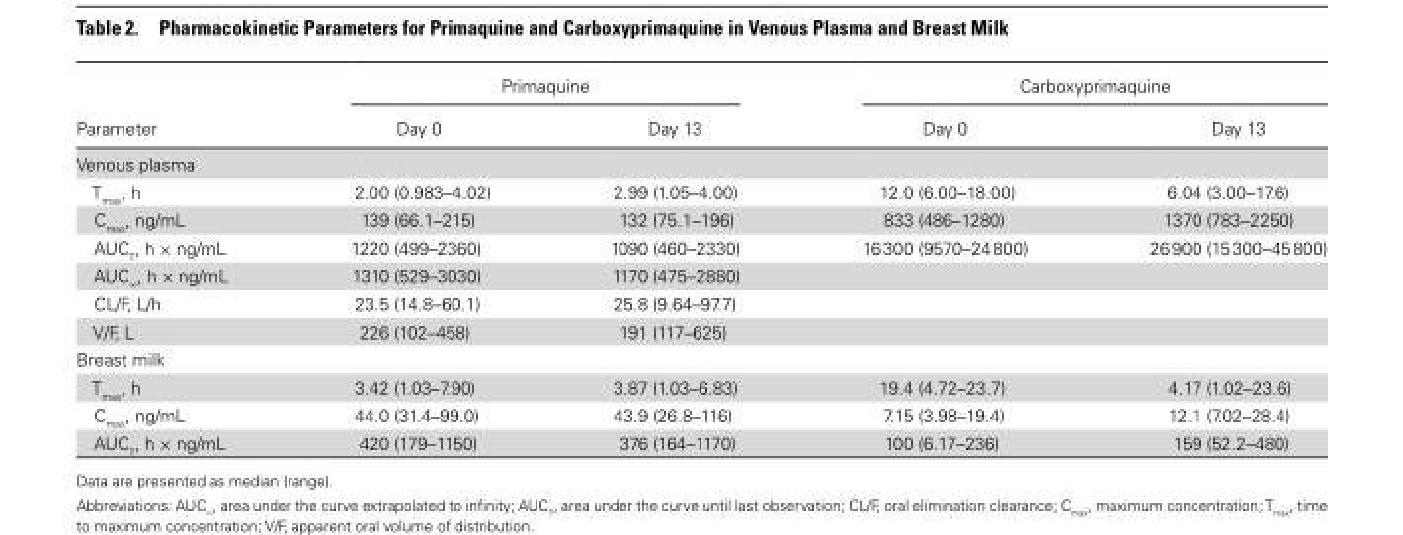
<table><thead><tr><td rowspan="2">Parameter</td><td colspan="2">Primaquine</td><td colspan="2">Carboxyprimaquine</td></tr><tr><td>Day 0</td><td>Day 13</td><td>Day 0</td><td>Day 13</td></tr></thead><tbody><tr><td colspan="5">Venous plasma</td></tr><tr><td>T<sub>max</sub>, h</td><td>2.00 (0.983–4.02)</td><td>2.99 (1.05–4.00)</td><td>12.0 (6.00–18.00)</td><td>6.04 (3.00–17.6)</td></tr><tr><td>C<sub>max</sub>, ng/mL</td><td>139 (66.1–215)</td><td>132 (75.1–196)</td><td>833 (486–1280)</td><td>1370 (783–2250)</td></tr><tr><td>AUC<sub>T</sub>, h × ng/mL</td><td>1220 (499–2360)</td><td>1090 (460–2330)</td><td>16 300 (9570–24 800)</td><td>26 900 (15 300–45 800)</td></tr><tr><td>AUC<sub>∞</sub>, h × ng/mL</td><td>1310 (529–3030)</td><td>1170 (475–2880)</td><td></td><td></td></tr><tr><td>CL/F, L/h</td><td>23.5 (14.8–60.1)</td><td>25.8 (9.64–97.7)</td><td></td><td></td></tr><tr><td>V/F, L</td><td>226 (102–458)</td><td>191 (117–625)</td><td></td><td></td></tr><tr><td colspan="5">Breast milk</td></tr><tr><td>T<sub>max</sub>, h</td><td>3.42 (1.03–7.90)</td><td>3.87 (1.03–6.83)</td><td>19.4 (4.72–23.7)</td><td>4.17 (1.02–23.6)</td></tr><tr><td>C<sub>max</sub>, ng/mL</td><td>44.0 (31.4–99.0)</td><td>43.9 (26.8–116)</td><td>7.15 (3.98–19.4)</td><td>12.1 (7.02–28.4)</td></tr><tr><td>AUC<sub>T</sub>, h × ng/mL</td><td>420 (179–1150)</td><td>376 (164–1170)</td><td>100 (6.17–236)</td><td>159 (52.2–480)</td></tr></tbody></table>